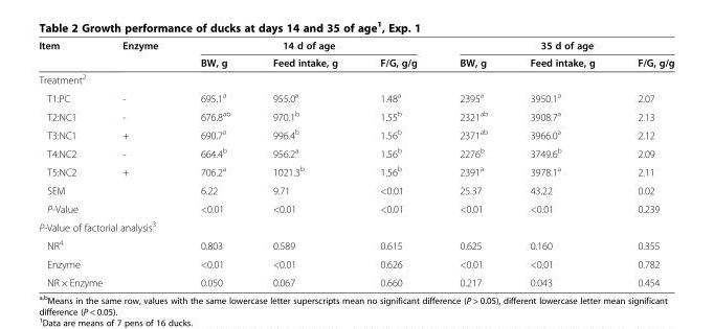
<table><thead><tr><td rowspan="2">Item</td><td rowspan="2">Enzyme</td><td colspan="3">14 d of age</td><td colspan="3">35 d of age</td></tr><tr><td>BW, g</td><td>Feed intake, g</td><td>F/G, g/g</td><td>BW, g</td><td>Feed intake, g</td><td>F/G, g/g</td></tr></thead><tbody><tr><td colspan="8">Treatment<sup>2</sup></td></tr><tr><td>T1:PC</td><td>-</td><td>695.1<sup>a</sup></td><td>955.0<sup>a</sup></td><td>1.48<sup>a</sup></td><td>2395<sup>a</sup></td><td>3950.1<sup>a</sup></td><td>2.07</td></tr><tr><td>T2:NC1</td><td>-</td><td>676.8<sup>ab</sup></td><td>970.1<sup>b</sup></td><td>1.55<sup>b</sup></td><td>2321<sup>ab</sup></td><td>3908.7<sup>a</sup></td><td>2.13</td></tr><tr><td>T3:NC1</td><td>+</td><td>690.7<sup>a</sup></td><td>996.4<sup>b</sup></td><td>1.56<sup>b</sup></td><td>2371<sup>ab</sup></td><td>3966.0<sup>a</sup></td><td>2.12</td></tr><tr><td>T4:NC2</td><td>-</td><td>664.4<sup>b</sup></td><td>956.2<sup>a</sup></td><td>1.56<sup>b</sup></td><td>2276<sup>b</sup></td><td>3749.6<sup>b</sup></td><td>2.09</td></tr><tr><td>T5:NC2</td><td>+</td><td>706.2<sup>a</sup></td><td>1021.3<sup>b</sup></td><td>1.56<sup>b</sup></td><td>2391<sup>a</sup></td><td>3978.1<sup>a</sup></td><td>2.11</td></tr><tr><td>SEM</td><td></td><td>6.22</td><td>9.71</td><td>&lt;0.01</td><td>25.37</td><td>43.22</td><td>0.02</td></tr><tr><td>P-Value</td><td></td><td>&lt;0.01</td><td>&lt;0.01</td><td>&lt;0.01</td><td>&lt;0.01</td><td>&lt;0.01</td><td>0.239</td></tr><tr><td colspan="8">P-Value of factorial analysis<sup>3</sup></td></tr><tr><td>NR<sup>4</sup></td><td></td><td>0.803</td><td>0.589</td><td>0.615</td><td>0.625</td><td>0.160</td><td>0.355</td></tr><tr><td>Enzyme</td><td></td><td>&lt;0.01</td><td>&lt;0.01</td><td>0.626</td><td>&lt;0.01</td><td>&lt;0.01</td><td>0.782</td></tr><tr><td colspan="2">NR × Enzyme</td><td>0.050</td><td>0.067</td><td>0.660</td><td>0.217</td><td>0.043</td><td>0.454</td></tr></tbody></table>